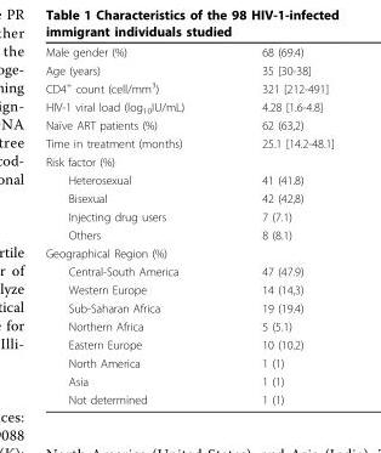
<table><tbody><tr><td>Male gender (%)</td><td>68 (69.4)</td></tr><tr><td>Age (years)</td><td>35 [30-38]</td></tr><tr><td>CD4<sup>+</sup> count (cell/mm<sup>3</sup>)</td><td>321 [212-491]</td></tr><tr><td>HIV-1 viral load (log<sub>10</sub>IU/mL)</td><td>4.28 [1.6-4.8]</td></tr><tr><td>Naïve ART patients (%)</td><td>62 (63,2)</td></tr><tr><td>Time in treatment (months)</td><td>25.1 [14.2-48.1]</td></tr><tr><td colspan="2">Risk factor (%)</td></tr><tr><td>Heterosexual</td><td>41 (41.8)</td></tr><tr><td>Bisexual</td><td>42 (42,8)</td></tr><tr><td>Injecting drug users</td><td>7 (7.1)</td></tr><tr><td>Others</td><td>8 (8.1)</td></tr><tr><td colspan="2">Geographical Region (%)</td></tr><tr><td>Central-South America</td><td>47 (47.9)</td></tr><tr><td>Western Europe</td><td>14 (14,3)</td></tr><tr><td>Sub-Saharan Africa</td><td>19 (19.4)</td></tr><tr><td>Northern Africa</td><td>5 (5.1)</td></tr><tr><td>Eastern Europe</td><td>10 (10.2)</td></tr><tr><td>North America</td><td>1 (1)</td></tr><tr><td>Asia</td><td>1 (1)</td></tr><tr><td>Not determined</td><td>1 (1)</td></tr></tbody></table>